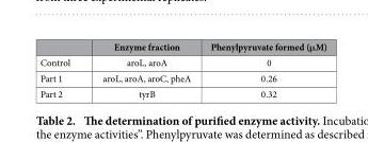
<table><thead><tr><td></td><td>Enzyme fraction</td><td>Phenylpyruvate formed (μM)</td></tr></thead><tbody><tr><td>Control</td><td>aroL, aroA</td><td>0</td></tr><tr><td>Part 1</td><td>aroL, aroA, aroC, pheA</td><td>0.26</td></tr><tr><td>Part 2</td><td>tyrB</td><td>0.32</td></tr></tbody></table>